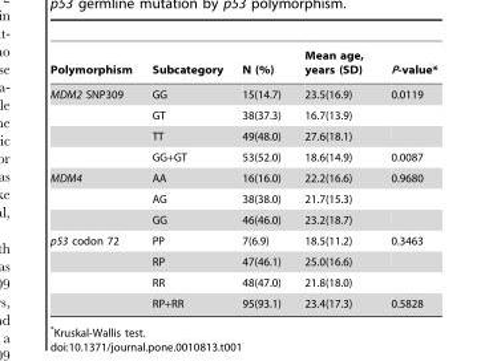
<table><thead><tr><td>Polymorphism</td><td>Subcategory</td><td>N (%)</td><td>Mean age, years (SD)</td><td>P-value*</td></tr></thead><tbody><tr><td rowspan="4">MDM2 SNP309</td><td>GG</td><td>15(14.7)</td><td>23.5(16.9)</td><td>0.0119</td></tr><tr><td>GT</td><td>38(37.3)</td><td>16.7(13.9)</td><td></td></tr><tr><td>TT</td><td>49(48.0)</td><td>27.6(18.1)</td><td></td></tr><tr><td>GG+GT</td><td>53(52.0)</td><td>18.6(14.9)</td><td>0.0087</td></tr><tr><td rowspan="3">MDM4</td><td>AA</td><td>16(16.0)</td><td>22.2(16.6)</td><td>0.9680</td></tr><tr><td>AG</td><td>38(38.0)</td><td>21.7(15.3)</td><td></td></tr><tr><td>GG</td><td>46(46.0)</td><td>23.2(18.7)</td><td></td></tr><tr><td rowspan="4">p53 codon 72</td><td>PP</td><td>7(6.9)</td><td>18.5(11.2)</td><td>0.3463</td></tr><tr><td>RP</td><td>47(46.1)</td><td>25.0(16.6)</td><td></td></tr><tr><td>RR</td><td>48(47.0)</td><td>21.8(18.0)</td><td></td></tr><tr><td>RP+RR</td><td>95(93.1)</td><td>23.4(17.3)</td><td>0.5828</td></tr></tbody></table>